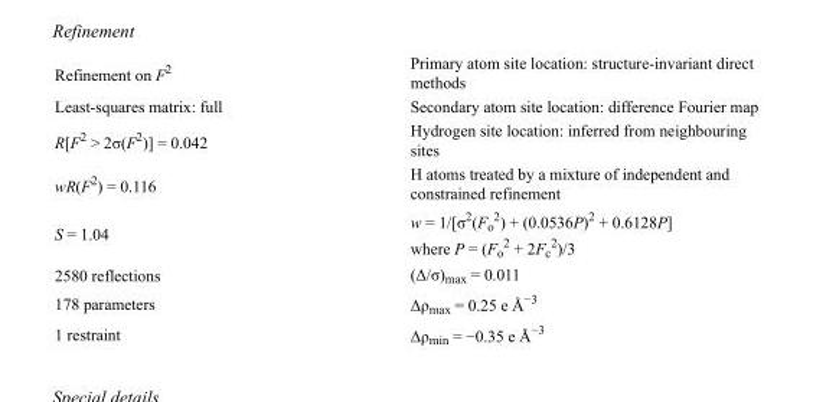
<table><tbody><tr><td>Refinement on F<sup>2</sup></td><td>Primary atom site location: structure-invariant direct methods</td></tr><tr><td>Least-squares matrix: full</td><td>Secondary atom site location: difference Fourier map</td></tr><tr><td>R[F<sup>2</sup> &gt; 2σ(F<sup>2</sup>)] = 0.042</td><td>Hydrogen site location: inferred from neighbouring sites</td></tr><tr><td>wR(F<sup>2</sup>) = 0.116</td><td>H atoms treated by a mixture of independent and constrained refinement</td></tr><tr><td>S = 1.04</td><td>w = 1/[σ<sup>2</sup>(F<sub>o</sub> <sup>2</sup>) + (0.0536P)<sup>2</sup> + 0.6128P] where P = (F<sub>o</sub> <sup>2</sup> + 2F<sub>c</sub> <sup>2</sup>)/3</td></tr><tr><td>2580 reflections</td><td>(Δ/σ)<sub>max</sub> = 0.011</td></tr><tr><td>178 parameters</td><td>Δρ<sub>max</sub> = 0.25 e Å<sup>−3</sup></td></tr><tr><td>1 restraint</td><td>Δρ<sub>min</sub> = −0.35 e Å<sup>−3</sup></td></tr></tbody></table>